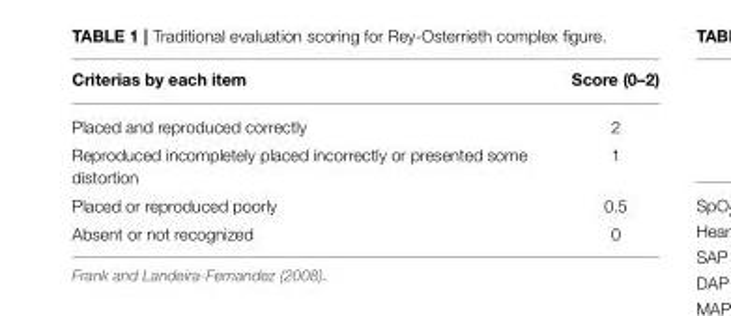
<table><thead><tr><td>Criterias by each item</td><td>Score (0–2)</td></tr></thead><tbody><tr><td>Placed and reproduced correctly</td><td>2</td></tr><tr><td>Reproduced incompletely placed incorrectly or presented some distortion</td><td>1</td></tr><tr><td>Placed or reproduced poorly</td><td>0.5</td></tr><tr><td>Absent or not recognized</td><td>0</td></tr></tbody></table>